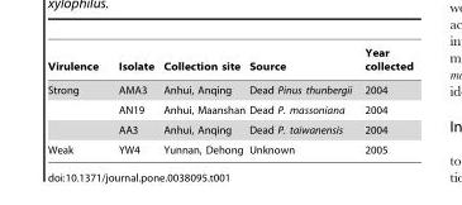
<table><thead><tr><td>Virulence</td><td>Isolate</td><td>Collection site</td><td>Source</td><td>Year collected</td></tr></thead><tbody><tr><td rowspan="3">Strong</td><td>AMA3</td><td>Anhui, Anqing</td><td>Dead Pinus thunbergii</td><td>2004</td></tr><tr><td>AN19</td><td>Anhui, Maanshan</td><td>Dead P. massoniana</td><td>2004</td></tr><tr><td>AA3</td><td>Anhui, Anqing</td><td>Dead P. taiwanensis</td><td>2004</td></tr><tr><td>Weak</td><td>YW4</td><td>Yunnan, Dehong</td><td>Unknown</td><td>2005</td></tr></tbody></table>